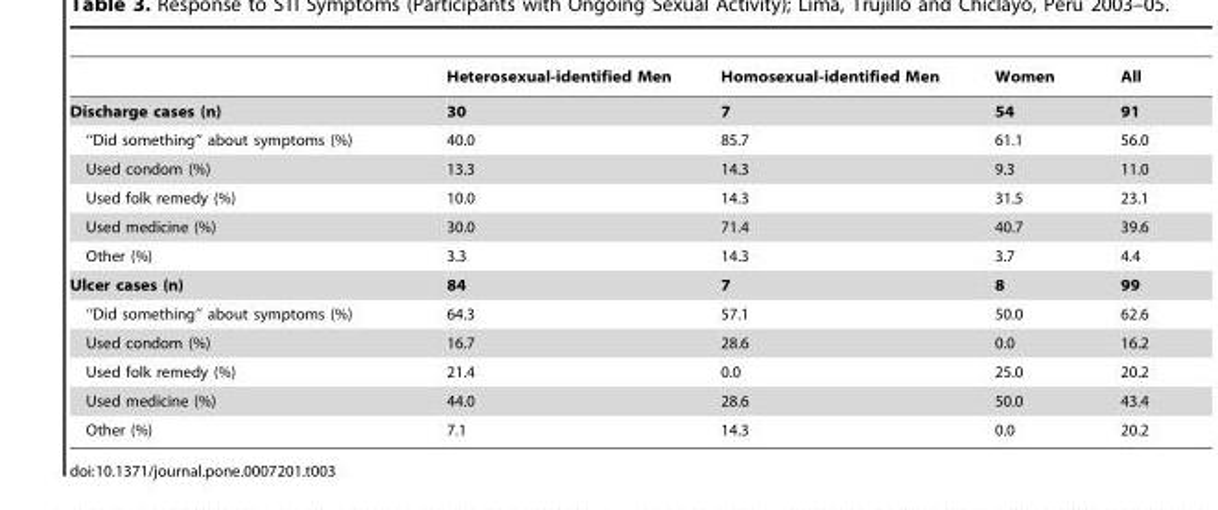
<table><thead><tr><td></td><td>Heterosexual-identified Men</td><td>Homosexual-identified Men</td><td>Women</td><td>All</td></tr></thead><tbody><tr><td>Discharge cases (n)</td><td>30</td><td>7</td><td>54</td><td>91</td></tr><tr><td>‘‘Did something’’ about symptoms (%)</td><td>40.0</td><td>85.7</td><td>61.1</td><td>56.0</td></tr><tr><td>Used condom (%)</td><td>13.3</td><td>14.3</td><td>9.3</td><td>11.0</td></tr><tr><td>Used folk remedy (%)</td><td>10.0</td><td>14.3</td><td>31.5</td><td>23.1</td></tr><tr><td>Used medicine (%)</td><td>30.0</td><td>71.4</td><td>40.7</td><td>39.6</td></tr><tr><td>Other (%)</td><td>3.3</td><td>14.3</td><td>3.7</td><td>4.4</td></tr><tr><td>Ulcer cases (n)</td><td>84</td><td>7</td><td>8</td><td>99</td></tr><tr><td>‘‘Did something’’ about symptoms (%)</td><td>64.3</td><td>57.1</td><td>50.0</td><td>62.6</td></tr><tr><td>Used condom (%)</td><td>16.7</td><td>28.6</td><td>0.0</td><td>16.2</td></tr><tr><td>Used folk remedy (%)</td><td>21.4</td><td>0.0</td><td>25.0</td><td>20.2</td></tr><tr><td>Used medicine (%)</td><td>44.0</td><td>28.6</td><td>50.0</td><td>43.4</td></tr><tr><td>Other (%)</td><td>7.1</td><td>14.3</td><td>0.0</td><td>20.2</td></tr></tbody></table>